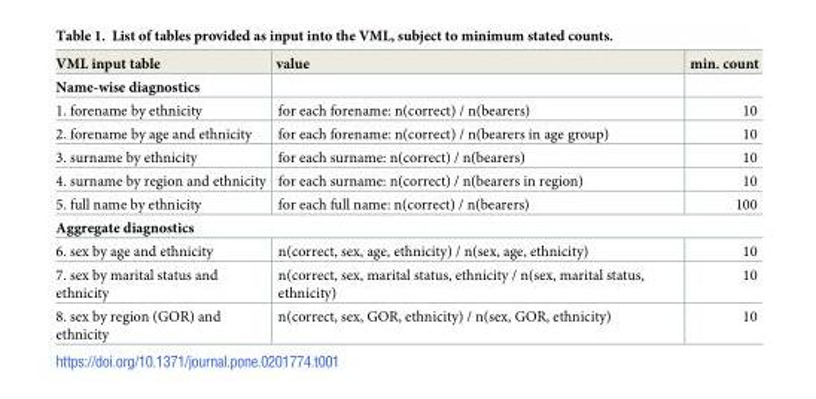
<table><thead><tr><td>VML input table</td><td>value</td><td>min. count</td></tr></thead><tbody><tr><td colspan="3">Name-wise diagnostics</td></tr><tr><td>1. forename by ethnicity</td><td>for each forename: n(correct) / n(bearers)</td><td>10</td></tr><tr><td>2. forename by age and ethnicity</td><td>for each forename: n(correct) / n(bearers in age group)</td><td>10</td></tr><tr><td>3. surname by ethnicity</td><td>for each surname: n(correct) / n(bearers)</td><td>10</td></tr><tr><td>4. surname by region and ethnicity</td><td>for each surname: n(correct) / n(bearers in region)</td><td>10</td></tr><tr><td>5. full name by ethnicity</td><td>for each full name: n(correct) / n(bearers)</td><td>100</td></tr><tr><td colspan="3">Aggregate diagnostics</td></tr><tr><td>6. sex by age and ethnicity</td><td>n(correct, sex, age, ethnicity) / n(sex, age, ethnicity)</td><td>10</td></tr><tr><td>7. sex by marital status and ethnicity</td><td>n(correct, sex, marital status, ethnicity / n(sex, marital status, ethnicity)</td><td>10</td></tr><tr><td>8. sex by region (GOR) and ethnicity</td><td>n(correct, sex, GOR, ethnicity) / n(sex, GOR, ethnicity)</td><td>10</td></tr></tbody></table>